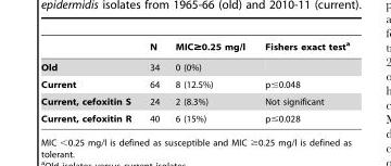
<table><thead><tr><td></td><td>N</td><td>MIC≥0.25 mg/l</td><td>Fishers exact test<sup>a</sup></td></tr></thead><tbody><tr><td>Old</td><td>34</td><td>0 (0%)</td><td></td></tr><tr><td>Current</td><td>64</td><td>8 (12.5%)</td><td>p≤0.048</td></tr><tr><td>Current, cefoxitin S</td><td>24</td><td>2 (8.3%)</td><td>Not significant</td></tr><tr><td>Current, cefoxitin R</td><td>40</td><td>6 (15%)</td><td>p≤0.028</td></tr></tbody></table>